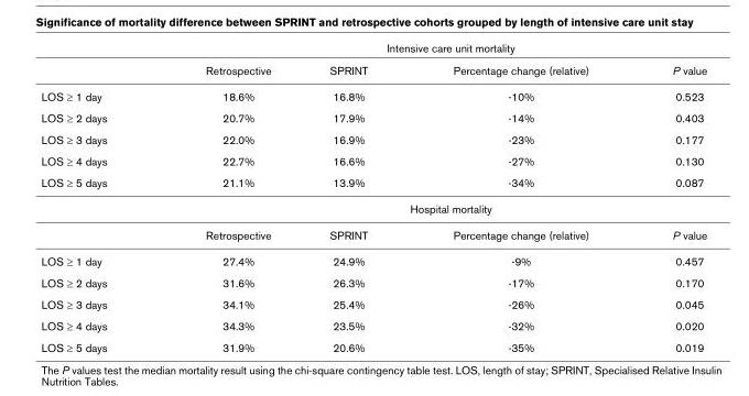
<table><thead><tr><td rowspan="2"></td><td colspan="4">Intensive care unit mortality</td></tr><tr><td>Retrospective</td><td>SPRINT</td><td>Percentage change (relative)</td><td>P value</td></tr></thead><tbody><tr><td>LOS ≥ 1 day</td><td>18.6%</td><td>16.8%</td><td>-10%</td><td>0.523</td></tr><tr><td>LOS ≥ 2 days</td><td>20.7%</td><td>17.9%</td><td>-14%</td><td>0.403</td></tr><tr><td>LOS ≥ 3 days</td><td>22.0%</td><td>16.9%</td><td>-23%</td><td>0.177</td></tr><tr><td>LOS ≥ 4 days</td><td>22.7%</td><td>16.6%</td><td>-27%</td><td>0.130</td></tr><tr><td rowspan="3">LOS ≥ 5 days</td><td>21.1%</td><td>13.9%</td><td>-34%</td><td>0.087</td></tr><tr><td colspan="4">Hospital mortality</td></tr><tr><td>Retrospective</td><td>SPRINT</td><td>Percentage change (relative)</td><td>P value</td></tr><tr><td>LOS ≥ 1 day</td><td>27.4%</td><td>24.9%</td><td>-9%</td><td>0.457</td></tr><tr><td>LOS ≥ 2 days</td><td>31.6%</td><td>26.3%</td><td>-17%</td><td>0.170</td></tr><tr><td>LOS ≥ 3 days</td><td>34.1%</td><td>25.4%</td><td>-26%</td><td>0.045</td></tr><tr><td>LOS ≥ 4 days</td><td>34.3%</td><td>23.5%</td><td>-32%</td><td>0.020</td></tr><tr><td>LOS ≥ 5 days</td><td>31.9%</td><td>20.6%</td><td>-35%</td><td>0.019</td></tr></tbody></table>